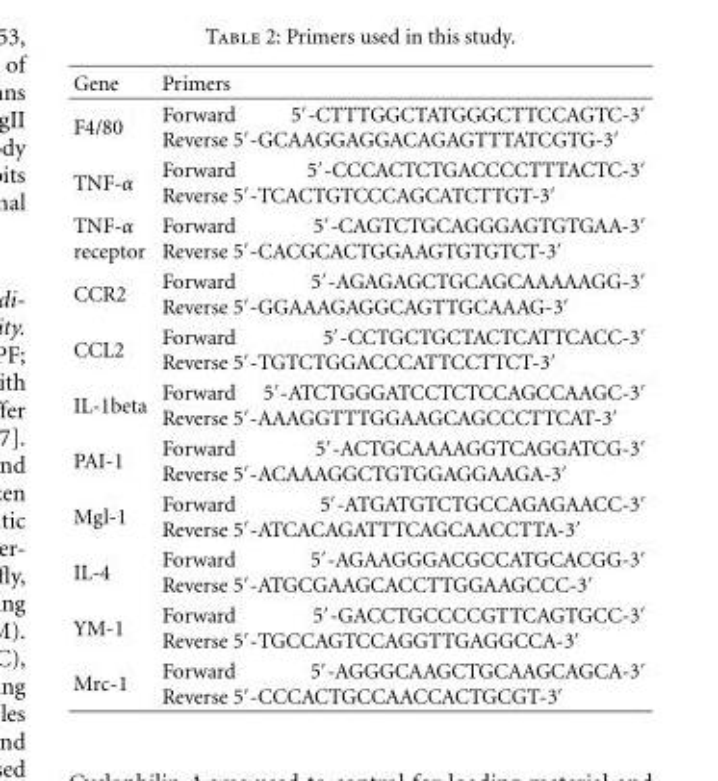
<table><thead><tr><td>Gene</td><td>Primers</td></tr></thead><tbody><tr><td>F4/80</td><td>Forward 5′-CTTTGGCTATGGGCTTCCAGTC-3′ Reverse 5′-GCAAGGAGGACAGAGTTTATCGTG-3′</td></tr><tr><td>TNF-α</td><td>Forward 5′-CCCACTCTGACCCCTTTACTC-3′ Reverse 5′-TCACTGTCCCAGCATCTTGT-3′</td></tr><tr><td>TNF-α receptor</td><td>Forward 5′-CAGTCTGCAGGGAGTGTGAA-3′ Reverse 5′-CACGCACTGGAAGTGTGTCT-3′</td></tr><tr><td>CCR2</td><td>Forward 5′-AGAGAGCTGCAGCAAAAAGG-3′ Reverse 5′-GGAAAGAGGCAGTTGCAAAG-3′</td></tr><tr><td>CCL2</td><td>Forward 5′-CCTGCTGCTACTCATTCACC-3′ Reverse 5′-TGTCTGGACCCATTCCTTCT-3′</td></tr><tr><td>IL-1beta</td><td>Forward 5′-ATCTGGGATCCTCTCCAGCCAAGC-3′ Reverse 5′-AAAGGTTTGGAAGCAGCCCTTCAT-3′</td></tr><tr><td>PAI-1</td><td>Forward 5′-ACTGCAAAAGGTCAGGATCG-3′ Reverse 5′-ACAAAGGCTGTGGAGGAAGA-3′</td></tr><tr><td>Mgl-1</td><td>Forward 5′-ATGATGTCTGCCAGAGAACC-3′ Reverse 5′-ATCACAGATTTCAGCAACCTTA-3′</td></tr><tr><td>IL-4</td><td>Forward 5′-AGAAGGGACGCCATGCACGG-3′ Reverse 5′-ATGCGAAGCACCTTGGAAGCCC-3′</td></tr><tr><td>YM-1</td><td>Forward 5′-GACCTGCCCCGTTCAGTGCC-3′ Reverse 5′-TGCCAGTCCAGGTTGAGGCCA-3′</td></tr><tr><td>Mrc-1</td><td>Forward 5′-AGGGCAAGCTGCAAGCAGCA-3′ Reverse 5′-CCCACTGCCAACCACTGCGT-3′</td></tr></tbody></table>